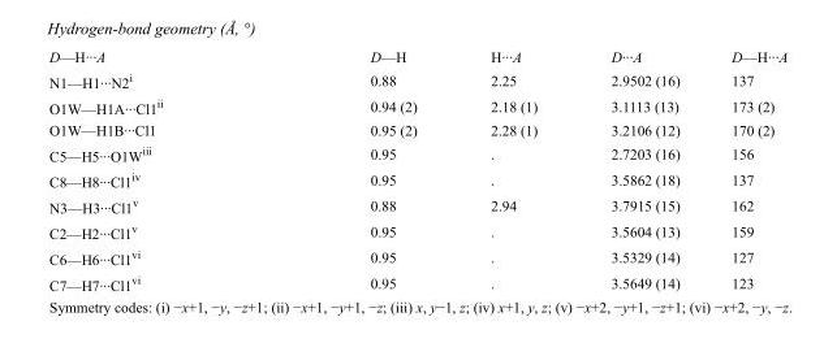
<table><tbody><tr><td>D—H···A</td><td>D—H</td><td>H···A</td><td>D···A</td><td>D—H···A</td></tr><tr><td>N1—H1···N2<sup>i</sup></td><td>0.88</td><td>2.25</td><td>2.9502 (16)</td><td>137</td></tr><tr><td>O1W—H1A···Cl1<sup>ii</sup></td><td>0.94 (2)</td><td>2.18 (1)</td><td>3.1113 (13)</td><td>173 (2)</td></tr><tr><td>O1W—H1B···Cl1</td><td>0.95 (2)</td><td>2.28 (1)</td><td>3.2106 (12)</td><td>170 (2)</td></tr><tr><td>C5—H5···O1W<sup>iii</sup></td><td>0.95</td><td>.</td><td>2.7203 (16)</td><td>156</td></tr><tr><td>C8—H8···Cl1<sup>iv</sup></td><td>0.95</td><td>.</td><td>3.5862 (18)</td><td>137</td></tr><tr><td>N3—H3···Cl1<sup>v</sup></td><td>0.88</td><td>2.94</td><td>3.7915 (15)</td><td>162</td></tr><tr><td>C2—H2···Cl1<sup>v</sup></td><td>0.95</td><td>.</td><td>3.5604 (13)</td><td>159</td></tr><tr><td>C6—H6···Cl1<sup>vi</sup></td><td>0.95</td><td>.</td><td>3.5329 (14)</td><td>127</td></tr><tr><td>C7—H7···Cl1<sup>vi</sup></td><td>0.95</td><td>.</td><td>3.5649 (14)</td><td>123</td></tr></tbody></table>